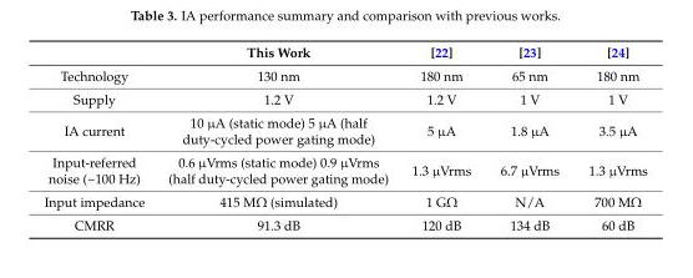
<table><thead><tr><td></td><td>This Work</td><td>[22]</td><td>[23]</td><td>[24]</td></tr></thead><tbody><tr><td>Technology</td><td>130 nm</td><td>180 nm</td><td>65 nm</td><td>180 nm</td></tr><tr><td>Supply</td><td>1.2 V</td><td>1.2 V</td><td>1 V</td><td>1 V</td></tr><tr><td>IA current</td><td>10 µA (static mode) 5 µA (half duty-cycled power gating mode)</td><td>5 µA</td><td>1.8 µA</td><td>3.5 µA</td></tr><tr><td>Input-referred noise (~100 Hz)</td><td>0.6 µVrms (static mode) 0.9 µVrms (half duty-cycled power gating mode)</td><td>1.3 µVrms</td><td>6.7 µVrms</td><td>1.3 µVrms</td></tr><tr><td>Input impedance</td><td>415 MΩ (simulated)</td><td>1 GΩ</td><td>N/A</td><td>700 MΩ</td></tr><tr><td>CMRR</td><td>91.3 dB</td><td>120 dB</td><td>134 dB</td><td>60 dB</td></tr></tbody></table>